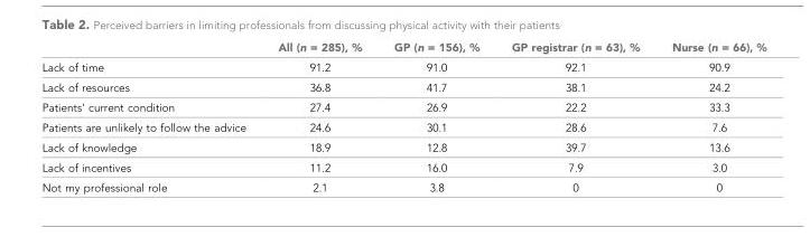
<table><thead><tr><td></td><td>All (n = 285), %</td><td>GP (n = 156), %</td><td>GP registrar (n = 63), %</td><td>Nurse (n = 66), %</td></tr></thead><tbody><tr><td>Lack of time</td><td>91.2</td><td>91.0</td><td>92.1</td><td>90.9</td></tr><tr><td>Lack of resources</td><td>36.8</td><td>41.7</td><td>38.1</td><td>24.2</td></tr><tr><td>Patients’ current condition</td><td>27.4</td><td>26.9</td><td>22.2</td><td>33.3</td></tr><tr><td>Patients are unlikely to follow the advice</td><td>24.6</td><td>30.1</td><td>28.6</td><td>7.6</td></tr><tr><td>Lack of knowledge</td><td>18.9</td><td>12.8</td><td>39.7</td><td>13.6</td></tr><tr><td>Lack of incentives</td><td>11.2</td><td>16.0</td><td>7.9</td><td>3.0</td></tr><tr><td>Not my professional role</td><td>2.1</td><td>3.8</td><td>0</td><td>0</td></tr></tbody></table>